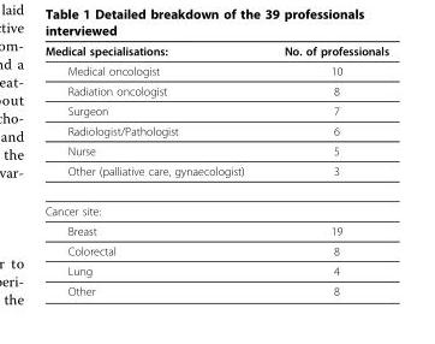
<table><thead><tr><td>Medical specialisations:</td><td>No. of professionals</td></tr></thead><tbody><tr><td>Medical oncologist</td><td>10</td></tr><tr><td>Radiation oncologist</td><td>8</td></tr><tr><td>Surgeon</td><td>7</td></tr><tr><td>Radiologist/Pathologist</td><td>6</td></tr><tr><td>Nurse</td><td>5</td></tr><tr><td>Other (palliative care, gynaecologist)</td><td>3</td></tr><tr><td colspan="2">Cancer site:</td></tr><tr><td>Breast</td><td>19</td></tr><tr><td>Colorectal</td><td>8</td></tr><tr><td>Lung</td><td>4</td></tr><tr><td>Other</td><td>8</td></tr></tbody></table>